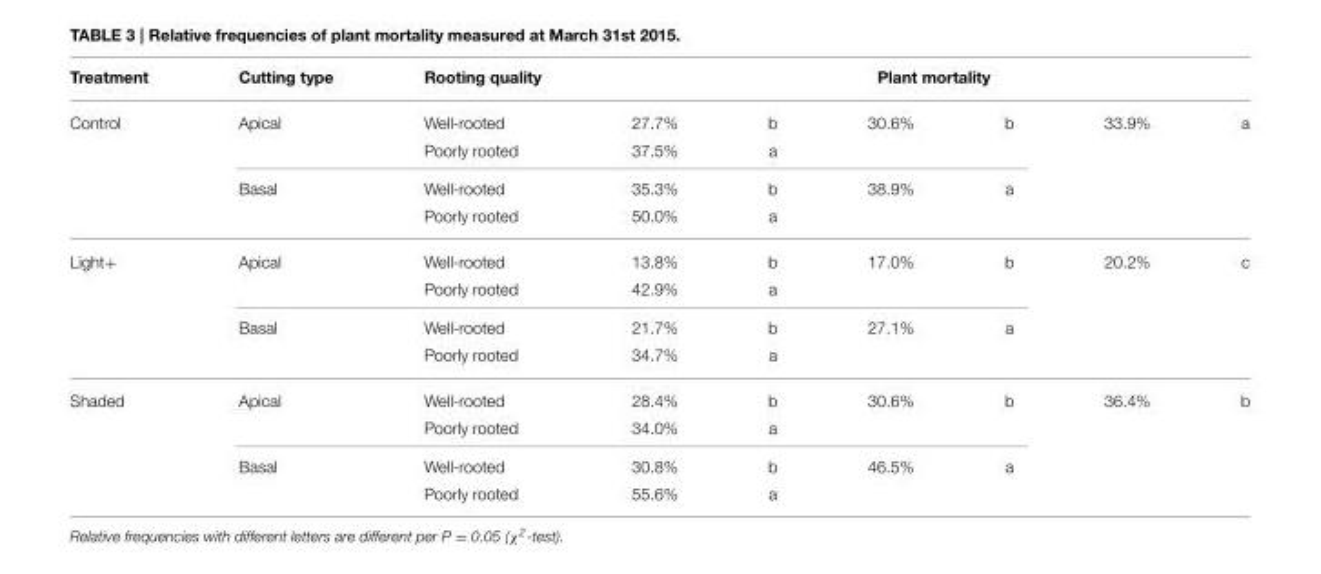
<table><thead><tr><td rowspan="2">Treatment Control</td><td rowspan="2">Cutting type Apical</td><td rowspan="2">Rooting quality Well-rooted</td><td colspan="6">Plant mortality</td></tr><tr><td>27.7%</td><td>b</td><td>30.6%</td><td>b</td><td>33.9%</td><td>a</td></tr></thead><tbody><tr><td></td><td></td><td>Poorly rooted</td><td>37.5%</td><td>a</td><td></td><td></td><td></td><td></td></tr><tr><td></td><td>Basal</td><td>Well-rooted</td><td>35.3%</td><td>b</td><td>38.9%</td><td>a</td><td></td><td></td></tr><tr><td></td><td></td><td>Poorly rooted</td><td>50.0%</td><td>a</td><td></td><td></td><td></td><td></td></tr><tr><td rowspan="4">Light+</td><td>Apical</td><td>Well-rooted</td><td>13.8%</td><td>b</td><td>17.0%</td><td>b</td><td>20.2%</td><td>c</td></tr><tr><td></td><td>Poorly rooted</td><td>42.9%</td><td>a</td><td></td><td></td><td></td><td></td></tr><tr><td>Basal</td><td>Well-rooted</td><td>21.7%</td><td>b</td><td>27.1%</td><td>a</td><td></td><td></td></tr><tr><td></td><td>Poorly rooted</td><td>34.7%</td><td>a</td><td></td><td></td><td></td><td></td></tr><tr><td rowspan="4">Shaded</td><td>Apical</td><td>Well-rooted</td><td>28.4%</td><td>b</td><td>30.6%</td><td>b</td><td>36.4%</td><td>b</td></tr><tr><td></td><td>Poorly rooted</td><td>34.0%</td><td>a</td><td></td><td></td><td></td><td></td></tr><tr><td>Basal</td><td>Well-rooted</td><td>30.8%</td><td>b</td><td>46.5%</td><td>a</td><td></td><td></td></tr><tr><td></td><td>Poorly rooted</td><td>55.6%</td><td>a</td><td></td><td></td><td></td><td></td></tr></tbody></table>